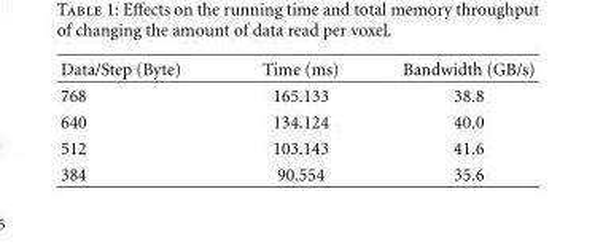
<table><thead><tr><td>Data/Step (Byte)</td><td>Time (ms)</td><td>Bandwidth (GB/s)</td></tr></thead><tbody><tr><td>768</td><td>165.133</td><td>38.8</td></tr><tr><td>640</td><td>134.124</td><td>40.0</td></tr><tr><td>512</td><td>103.143</td><td>41.6</td></tr><tr><td>384</td><td>90.554</td><td>35.6</td></tr></tbody></table>